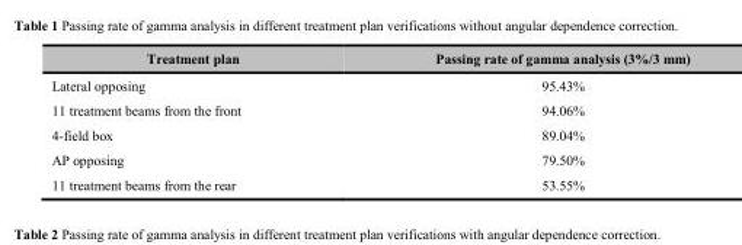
<table><thead><tr><td>Treatment plan</td><td>Passing rate of gamma analysis (3%/3 mm)</td></tr></thead><tbody><tr><td>Lateral opposing</td><td>95.43%</td></tr><tr><td>11 treatment beams from the front</td><td>94.06%</td></tr><tr><td>4-field box</td><td>89.04%</td></tr><tr><td>AP opposing</td><td>79.50%</td></tr><tr><td>11 treatment beams from the rear</td><td>53.55%</td></tr></tbody></table>